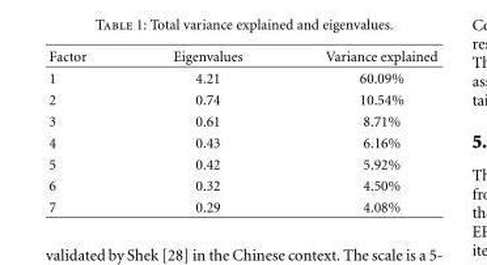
<table><thead><tr><td>Factor</td><td>Eigenvalues</td><td>Variance explained</td></tr></thead><tbody><tr><td>1</td><td>4.21</td><td>60.09%</td></tr><tr><td>2</td><td>0.74</td><td>10.54%</td></tr><tr><td>3</td><td>0.61</td><td>8.71%</td></tr><tr><td>4</td><td>0.43</td><td>6.16%</td></tr><tr><td>5</td><td>0.42</td><td>5.92%</td></tr><tr><td>6</td><td>0.32</td><td>4.50%</td></tr><tr><td>7</td><td>0.29</td><td>4.08%</td></tr></tbody></table>